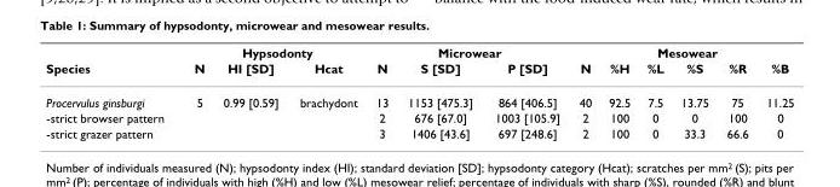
<table><thead><tr><td rowspan="2">Species</td><td colspan="3">Hypsodonty</td><td colspan="3">Microwear</td><td colspan="6">Mesowear</td></tr><tr><td>N</td><td>HI [SD]</td><td>Hcat</td><td>N</td><td>S [SD]</td><td>P [SD]</td><td>N</td><td>%H</td><td>%L</td><td>%S</td><td>%R</td><td>%B</td></tr></thead><tbody><tr><td>Procervulus ginsburgi</td><td>5</td><td>0.99 [0.59]</td><td>brachydont</td><td>13</td><td>1153 [475.3]</td><td>864 [406.5]</td><td>40</td><td>92.5</td><td>7.5</td><td>13.75</td><td>75</td><td>11.25</td></tr><tr><td>-strict browser pattern</td><td></td><td></td><td></td><td>2</td><td>676 [67.0]</td><td>1003 [105.9]</td><td>2</td><td>100</td><td>0</td><td>0</td><td>100</td><td>0</td></tr><tr><td>-strict grazer pattern</td><td></td><td></td><td></td><td>3</td><td>1406 [43.6]</td><td>697 [248.6]</td><td>2</td><td>100</td><td>0</td><td>33.3</td><td>66.6</td><td>0</td></tr></tbody></table>